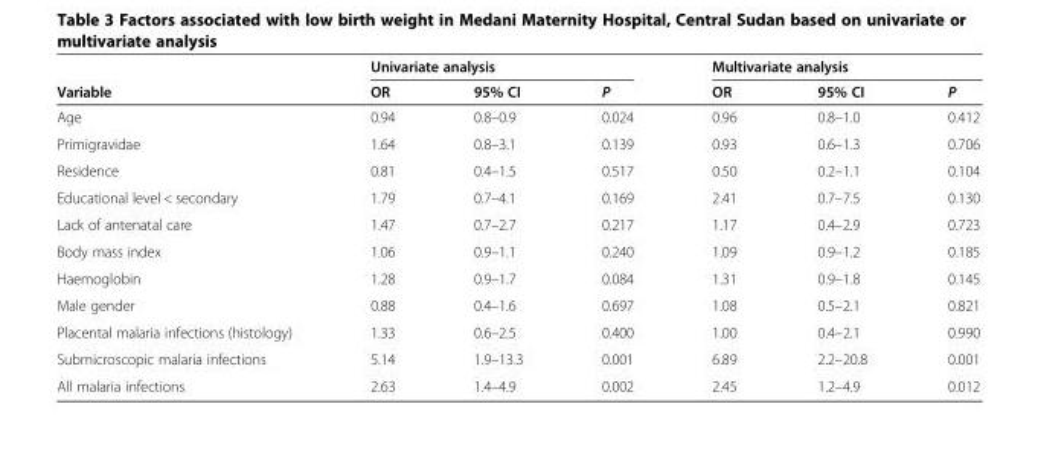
<table><thead><tr><td rowspan="2">Variable</td><td colspan="3">Univariate analysis</td><td colspan="3">Multivariate analysis</td></tr><tr><td>OR</td><td>95% CI</td><td>P</td><td>OR</td><td>95% CI</td><td>P</td></tr></thead><tbody><tr><td>Age</td><td>0.94</td><td>0.8–0.9</td><td>0.024</td><td>0.96</td><td>0.8–1.0</td><td>0.412</td></tr><tr><td>Primigravidae</td><td>1.64</td><td>0.8–3.1</td><td>0.139</td><td>0.93</td><td>0.6–1.3</td><td>0.706</td></tr><tr><td>Residence</td><td>0.81</td><td>0.4–1.5</td><td>0.517</td><td>0.50</td><td>0.2–1.1</td><td>0.104</td></tr><tr><td>Educational level &lt; secondary</td><td>1.79</td><td>0.7–4.1</td><td>0.169</td><td>2.41</td><td>0.7–7.5</td><td>0.130</td></tr><tr><td>Lack of antenatal care</td><td>1.47</td><td>0.7–2.7</td><td>0.217</td><td>1.17</td><td>0.4–2.9</td><td>0.723</td></tr><tr><td>Body mass index</td><td>1.06</td><td>0.9–1.1</td><td>0.240</td><td>1.09</td><td>0.9–1.2</td><td>0.185</td></tr><tr><td>Haemoglobin</td><td>1.28</td><td>0.9–1.7</td><td>0.084</td><td>1.31</td><td>0.9–1.8</td><td>0.145</td></tr><tr><td>Male gender</td><td>0.88</td><td>0.4–1.6</td><td>0.697</td><td>1.08</td><td>0.5–2.1</td><td>0.821</td></tr><tr><td>Placental malaria infections (histology)</td><td>1.33</td><td>0.6–2.5</td><td>0.400</td><td>1.00</td><td>0.4–2.1</td><td>0.990</td></tr><tr><td>Submicroscopic malaria infections</td><td>5.14</td><td>1.9–13.3</td><td>0.001</td><td>6.89</td><td>2.2–20.8</td><td>0.001</td></tr><tr><td>All malaria infections</td><td>2.63</td><td>1.4–4.9</td><td>0.002</td><td>2.45</td><td>1.2–4.9</td><td>0.012</td></tr></tbody></table>